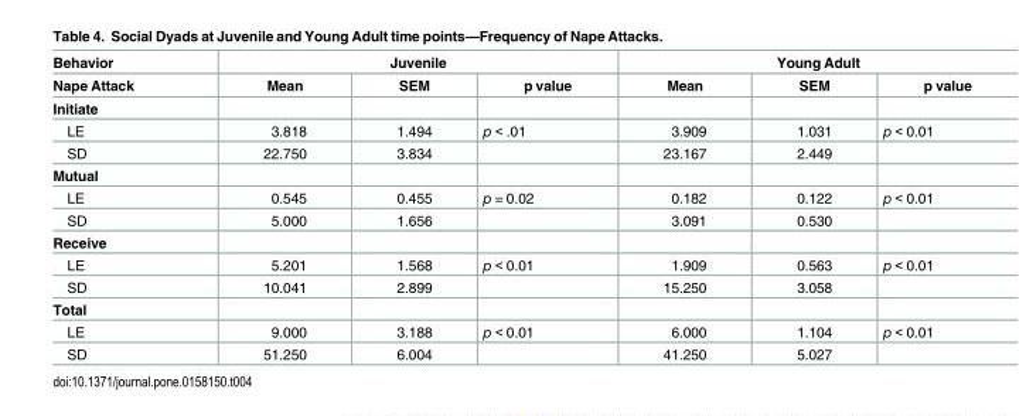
<table><thead><tr><td rowspan="2">Behavior Nape Attack</td><td colspan="3">Juvenile</td><td colspan="3">Young Adult</td></tr><tr><td>Mean</td><td>SEM</td><td>p value</td><td>Mean</td><td>SEM</td><td>p value</td></tr></thead><tbody><tr><td colspan="7">Initiate</td></tr><tr><td>LE</td><td>3.818</td><td>1.494</td><td>p &lt; .01</td><td>3.909</td><td>1.031</td><td>p &lt; 0.01</td></tr><tr><td>SD</td><td>22.750</td><td>3.834</td><td></td><td>23.167</td><td>2.449</td><td></td></tr><tr><td colspan="7">Mutual</td></tr><tr><td>LE</td><td>0.545</td><td>0.455</td><td>p = 0.02</td><td>0.182</td><td>0.122</td><td>p &lt; 0.01</td></tr><tr><td>SD</td><td>5.000</td><td>1.656</td><td></td><td>3.091</td><td>0.530</td><td></td></tr><tr><td colspan="7">Receive</td></tr><tr><td>LE</td><td>5.201</td><td>1.568</td><td>p &lt; 0.01</td><td>1.909</td><td>0.563</td><td>p &lt; 0.01</td></tr><tr><td>SD</td><td>10.041</td><td>2.899</td><td></td><td>15.250</td><td>3.058</td><td></td></tr><tr><td colspan="7">Total</td></tr><tr><td>LE</td><td>9.000</td><td>3.188</td><td>p &lt; 0.01</td><td>6.000</td><td>1.104</td><td>p &lt; 0.01</td></tr><tr><td>SD</td><td>51.250</td><td>6.004</td><td></td><td>41.250</td><td>5.027</td><td></td></tr></tbody></table>